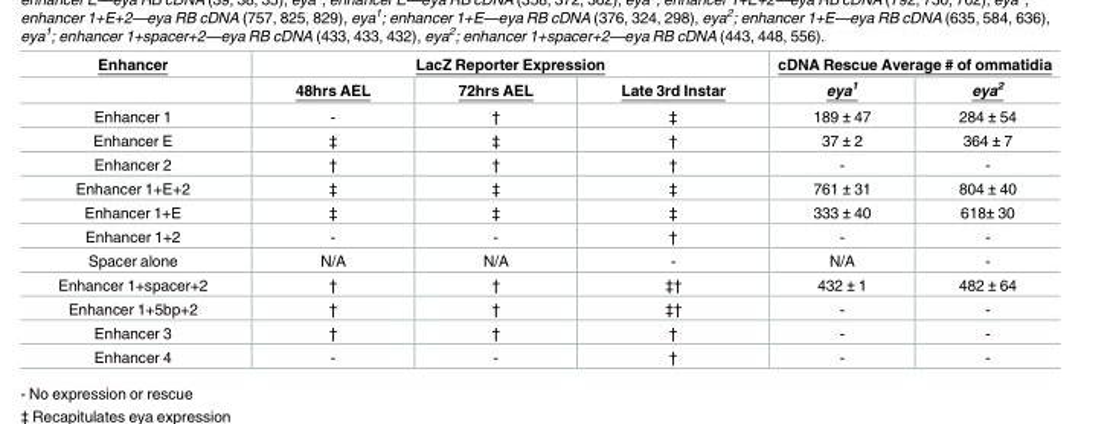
<table><thead><tr><td rowspan="2">Enhancer</td><td colspan="3">LacZ Reporter Expression</td><td colspan="2">cDNA Rescue Average # of ommatidia</td></tr><tr><td>48hrs AEL</td><td>72hrs AEL</td><td>Late 3rd Instar</td><td>eya<sup>1</sup></td><td>eya<sup>2</sup></td></tr></thead><tbody><tr><td>Enhancer 1</td><td>-</td><td>†</td><td>‡</td><td>189 ± 47</td><td>284 ± 54</td></tr><tr><td>Enhancer E</td><td>‡</td><td>‡</td><td>†</td><td>37 ± 2</td><td>364 ± 7</td></tr><tr><td>Enhancer 2</td><td>†</td><td>†</td><td>†</td><td>-</td><td>-</td></tr><tr><td>Enhancer 1+E+2</td><td>‡</td><td>‡</td><td>‡</td><td>761 ± 31</td><td>804 ± 40</td></tr><tr><td>Enhancer 1+E</td><td>‡</td><td>‡</td><td>‡</td><td>333 ± 40</td><td>618± 30</td></tr><tr><td>Enhancer 1+2</td><td>-</td><td>-</td><td>†</td><td>-</td><td>-</td></tr><tr><td>Spacer alone</td><td>N/A</td><td>N/A</td><td>-</td><td>N/A</td><td>-</td></tr><tr><td>Enhancer 1+spacer+2</td><td>†</td><td>†</td><td>‡†</td><td>432 ± 1</td><td>482 ± 64</td></tr><tr><td>Enhancer 1+5bp+2</td><td>†</td><td>†</td><td>‡†</td><td>-</td><td>-</td></tr><tr><td>Enhancer 3</td><td>†</td><td>†</td><td>†</td><td>-</td><td>-</td></tr><tr><td>Enhancer 4</td><td>-</td><td>-</td><td>†</td><td>-</td><td>-</td></tr></tbody></table>